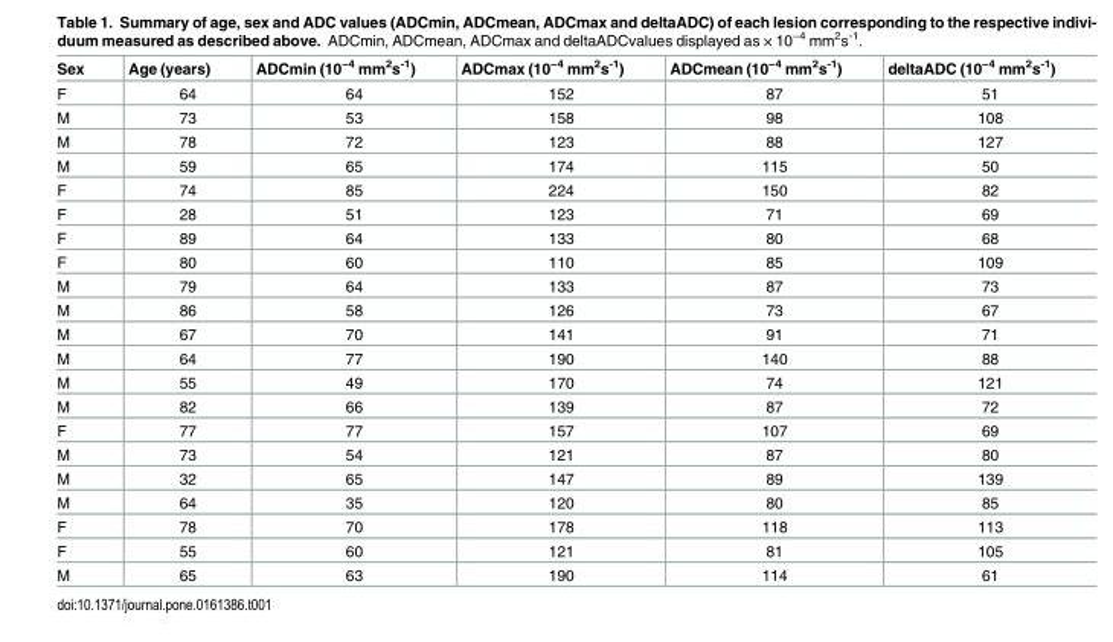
<table><thead><tr><td>Sex</td><td>Age (years)</td><td>ADCmin (10<sup>−4</sup> mm<sup>2</sup>s<sup>-1</sup>)</td><td>ADCmax (10<sup>−4</sup> mm<sup>2</sup>s<sup>-1</sup>)</td><td>ADCmean (10<sup>−4</sup> mm<sup>2</sup>s<sup>-1</sup>)</td><td>deltaADC (10<sup>−4</sup> mm<sup>2</sup>s<sup>-1</sup>)</td></tr></thead><tbody><tr><td>F</td><td>64</td><td>64</td><td>152</td><td>87</td><td>51</td></tr><tr><td>M</td><td>73</td><td>53</td><td>158</td><td>98</td><td>108</td></tr><tr><td>M</td><td>78</td><td>72</td><td>123</td><td>88</td><td>127</td></tr><tr><td>M</td><td>59</td><td>65</td><td>174</td><td>115</td><td>50</td></tr><tr><td>F</td><td>74</td><td>85</td><td>224</td><td>150</td><td>82</td></tr><tr><td>F</td><td>28</td><td>51</td><td>123</td><td>71</td><td>69</td></tr><tr><td>F</td><td>89</td><td>64</td><td>133</td><td>80</td><td>68</td></tr><tr><td>F</td><td>80</td><td>60</td><td>110</td><td>85</td><td>109</td></tr><tr><td>M</td><td>79</td><td>64</td><td>133</td><td>87</td><td>73</td></tr><tr><td>M</td><td>86</td><td>58</td><td>126</td><td>73</td><td>67</td></tr><tr><td>M</td><td>67</td><td>70</td><td>141</td><td>91</td><td>71</td></tr><tr><td>M</td><td>64</td><td>77</td><td>190</td><td>140</td><td>88</td></tr><tr><td>M</td><td>55</td><td>49</td><td>170</td><td>74</td><td>121</td></tr><tr><td>M</td><td>82</td><td>66</td><td>139</td><td>87</td><td>72</td></tr><tr><td>F</td><td>77</td><td>77</td><td>157</td><td>107</td><td>69</td></tr><tr><td>M</td><td>73</td><td>54</td><td>121</td><td>87</td><td>80</td></tr><tr><td>M</td><td>32</td><td>65</td><td>147</td><td>89</td><td>139</td></tr><tr><td>M</td><td>64</td><td>35</td><td>120</td><td>80</td><td>85</td></tr><tr><td>F</td><td>78</td><td>70</td><td>178</td><td>118</td><td>113</td></tr><tr><td>F</td><td>55</td><td>60</td><td>121</td><td>81</td><td>105</td></tr><tr><td>M</td><td>65</td><td>63</td><td>190</td><td>114</td><td>61</td></tr></tbody></table>